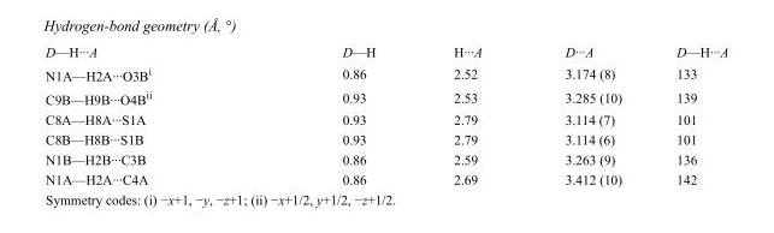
<table><tbody><tr><td>D—H···A</td><td>D—H</td><td>H···A</td><td>D···A</td><td>D—H···A</td></tr><tr><td>N1A—H2A···O3B<sup>i</sup></td><td>0.86</td><td>2.52</td><td>3.174 (8)</td><td>133</td></tr><tr><td>C9B—H9B···O4B<sup>ii</sup></td><td>0.93</td><td>2.53</td><td>3.285 (10)</td><td>139</td></tr><tr><td>C8A—H8A···S1A</td><td>0.93</td><td>2.79</td><td>3.114 (7)</td><td>101</td></tr><tr><td>C8B—H8B···S1B</td><td>0.93</td><td>2.79</td><td>3.114 (6)</td><td>101</td></tr><tr><td>N1B—H2B···C3B</td><td>0.86</td><td>2.59</td><td>3.263 (9)</td><td>136</td></tr><tr><td>N1A—H2A···C4A</td><td>0.86</td><td>2.69</td><td>3.412 (10)</td><td>142</td></tr></tbody></table>